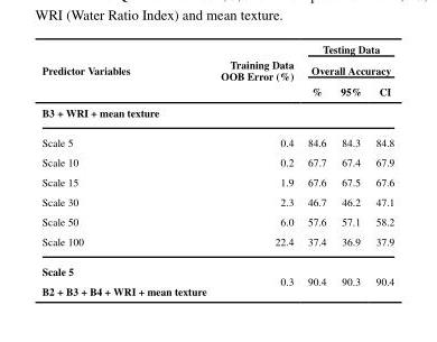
<table><thead><tr><td rowspan="3">Predictor Variables</td><td rowspan="3">Training Data OOB Error (%)</td><td rowspan="2" colspan="3">Testing Data Overall Accuracy</td></tr><tr></tr><tr><td>%</td><td>95%</td><td>CI</td></tr></thead><tbody><tr><td colspan="5">B3 + WRI + mean texture</td></tr><tr><td>Scale 5</td><td>0.4</td><td>84.6</td><td>84.3</td><td>84.8</td></tr><tr><td>Scale 10</td><td>0.2</td><td>67.7</td><td>67.4</td><td>67.9</td></tr><tr><td>Scale 15</td><td>1.9</td><td>67.6</td><td>67.5</td><td>67.6</td></tr><tr><td>Scale 30</td><td>2.3</td><td>46.7</td><td>46.2</td><td>47.1</td></tr><tr><td>Scale 50</td><td>6.0</td><td>57.6</td><td>57.1</td><td>58.2</td></tr><tr><td>Scale 100</td><td>22.4</td><td>37.4</td><td>36.9</td><td>37.9</td></tr><tr><td>Scale 5</td><td rowspan="2">0.3</td><td rowspan="2">90.4</td><td rowspan="2">90.3</td><td rowspan="2">90.4</td></tr><tr><td>B2 + B3 + B4 + WRI + mean texture</td></tr></tbody></table>